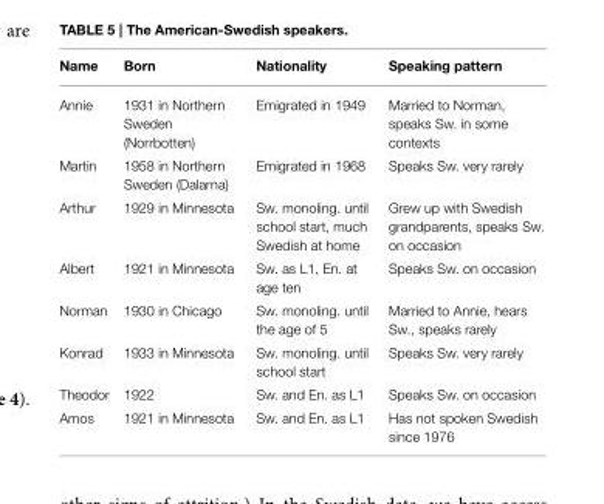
<table><thead><tr><td>Name</td><td>Born</td><td>Nationality</td><td>Speaking pattern</td></tr></thead><tbody><tr><td>Annie</td><td>1931 in Northern Sweden (Norrbotten)</td><td>Emigrated in 1949</td><td>Married to Norman, speaks Sw. in some contexts</td></tr><tr><td>Martin</td><td>1958 in Northern Sweden (Dalarna)</td><td>Emigrated in 1968</td><td>Speaks Sw. very rarely</td></tr><tr><td>Arthur</td><td>1929 in Minnesota</td><td>Sw. monoling. until school start, much Swedish at home</td><td>Grew up with Swedish grandparents, speaks Sw. on occasion</td></tr><tr><td>Albert</td><td>1921 in Minnesota</td><td>Sw. as L1, En. at age ten</td><td>Speaks Sw. on occasion</td></tr><tr><td>Norman</td><td>1930 in Chicago</td><td>Sw. monoling. until the age of 5</td><td>Married to Annie, hears Sw., speaks rarely</td></tr><tr><td>Konrad</td><td>1933 in Minnesota</td><td>Sw. monoling. until school start</td><td>Speaks Sw. very rarely</td></tr><tr><td>Theodor</td><td>1922</td><td>Sw. and En. as L1</td><td>Speaks Sw. on occasion</td></tr><tr><td>Amos</td><td>1921 in Minnesota</td><td>Sw. and En. as L1</td><td>Has not spoken Swedish since 1976</td></tr></tbody></table>